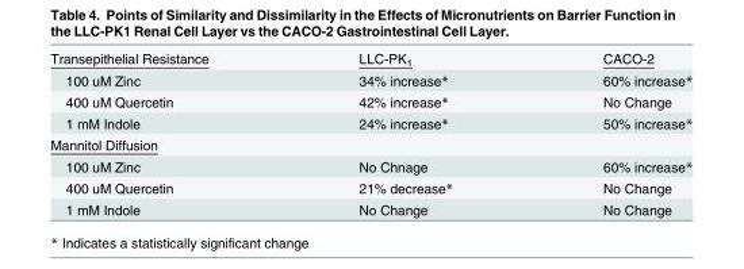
<table><tbody><tr><td>Transepithelial Resistance</td><td>LLC-PK<sub>1</sub></td><td>CACO-2</td></tr><tr><td>100 uM Zinc</td><td>34% increase*</td><td>60% increase*</td></tr><tr><td>400 uM Quercetin</td><td>42% increase*</td><td>No Change</td></tr><tr><td>1 mM Indole</td><td>24% increase*</td><td>50% increase*</td></tr><tr><td colspan="3">Mannitol Diffusion</td></tr><tr><td>100 uM Zinc</td><td>No Chnage</td><td>60% increase*</td></tr><tr><td>400 uM Quercetin</td><td>21% decrease*</td><td>No Change</td></tr><tr><td>1 mM Indole</td><td>No Change</td><td>No Change</td></tr></tbody></table>